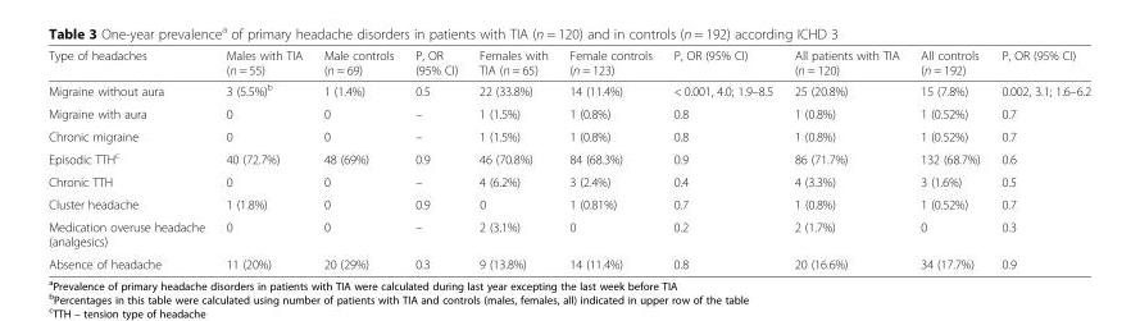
<table><thead><tr><td>Type of headaches</td><td>Males with TIA (n = 55)</td><td>Male controls (n = 69)</td><td>Р, ОR (95% CI)</td><td>Females with TIA (n = 65)</td><td>Female controls (n = 123)</td><td>Р, ОR (95% CI)</td><td>All patients with TIA (n = 120)</td><td>All controls (n = 192)</td><td>Р, ОR (95% CI)</td></tr></thead><tbody><tr><td>Migraine without aura</td><td>3 (5.5%)<sup>b</sup></td><td>1 (1.4%)</td><td>0.5</td><td>22 (33.8%)</td><td>14 (11.4%)</td><td>&lt; 0.001, 4.0; 1.9–8.5</td><td>25 (20.8%)</td><td>15 (7.8%)</td><td>0.002, 3.1; 1.6–6.2</td></tr><tr><td>Migraine with aura</td><td>0</td><td>0</td><td>–</td><td>1 (1.5%)</td><td>1 (0.8%)</td><td>0.8</td><td>1 (0.8%)</td><td>1 (0.52%)</td><td>0.7</td></tr><tr><td>Chronic migraine</td><td>0</td><td>0</td><td>–</td><td>1 (1.5%)</td><td>1 (0.8%)</td><td>0.8</td><td>1 (0.8%)</td><td>1 (0.52%)</td><td>0.7</td></tr><tr><td>Episodic TTH<sup>c</sup></td><td>40 (72.7%)</td><td>48 (69%)</td><td>0.9</td><td>46 (70.8%)</td><td>84 (68.3%)</td><td>0.9</td><td>86 (71.7%)</td><td>132 (68.7%)</td><td>0.6</td></tr><tr><td>Chronic TTH</td><td>0</td><td>0</td><td>–</td><td>4 (6.2%)</td><td>3 (2.4%)</td><td>0.4</td><td>4 (3.3%)</td><td>3 (1.6%)</td><td>0.5</td></tr><tr><td>Cluster headache</td><td>1 (1.8%)</td><td>0</td><td>0.9</td><td>0</td><td>1 (0.81%)</td><td>0.7</td><td>1 (0.8%)</td><td>1 (0.52%)</td><td>0.7</td></tr><tr><td>Medication overuse headache (analgesics)</td><td>0</td><td>0</td><td>–</td><td>2 (3.1%)</td><td>0</td><td>0.2</td><td>2 (1.7%)</td><td>0</td><td>0.3</td></tr><tr><td>Absence of headache</td><td>11 (20%)</td><td>20 (29%)</td><td>0.3</td><td>9 (13.8%)</td><td>14 (11.4%)</td><td>0.8</td><td>20 (16.6%)</td><td>34 (17.7%)</td><td>0.9</td></tr></tbody></table>